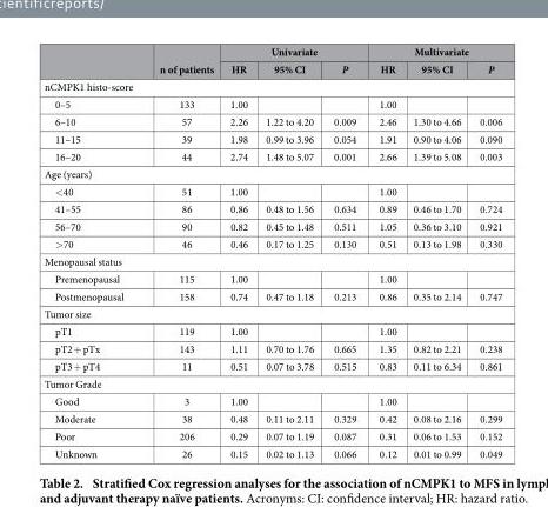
<table><thead><tr><td rowspan="2"></td><td rowspan="2">n of patients</td><td colspan="3">Univariate</td><td colspan="3">Multivariate</td></tr><tr><td>HR</td><td>95% CI</td><td>P</td><td>HR</td><td>95% CI</td><td>P</td></tr></thead><tbody><tr><td colspan="8">nCMPK1 histo-score</td></tr><tr><td>0–5</td><td>133</td><td>1.00</td><td></td><td></td><td>1.00</td><td></td><td></td></tr><tr><td>6–10</td><td>57</td><td>2.26</td><td>1.22 to 4.20</td><td>0.009</td><td>2.46</td><td>1.30 to 4.66</td><td>0.006</td></tr><tr><td>11–15</td><td>39</td><td>1.98</td><td>0.99 to 3.96</td><td>0.054</td><td>1.91</td><td>0.90 to 4.06</td><td>0.090</td></tr><tr><td>16–20</td><td>44</td><td>2.74</td><td>1.48 to 5.07</td><td>0.001</td><td>2.66</td><td>1.39 to 5.08</td><td>0.003</td></tr><tr><td colspan="8">Age (years)</td></tr><tr><td>&lt; 40</td><td>51</td><td>1.00</td><td></td><td></td><td>1.00</td><td></td><td></td></tr><tr><td>41–55</td><td>86</td><td>0.86</td><td>0.48 to 1.56</td><td>0.634</td><td>0.89</td><td>0.46 to 1.70</td><td>0.724</td></tr><tr><td>56–70</td><td>90</td><td>0.82</td><td>0.45 to 1.48</td><td>0.511</td><td>1.05</td><td>0.36 to 3.10</td><td>0.921</td></tr><tr><td>&gt; 70</td><td>46</td><td>0.46</td><td>0.17 to 1.25</td><td>0.130</td><td>0.51</td><td>0.13 to 1.98</td><td>0.330</td></tr><tr><td colspan="8">Menopausal status</td></tr><tr><td>Premenopausal</td><td>115</td><td>1.00</td><td></td><td></td><td>1.00</td><td></td><td></td></tr><tr><td>Postmenopausal</td><td>158</td><td>0.74</td><td>0.47 to 1.18</td><td>0.213</td><td>0.86</td><td>0.35 to 2.14</td><td>0.747</td></tr><tr><td colspan="8">Tumor size</td></tr><tr><td>pT1</td><td>119</td><td>1.00</td><td></td><td></td><td>1.00</td><td></td><td></td></tr><tr><td>pT2 + pTx</td><td>143</td><td>1.11</td><td>0.70 to 1.76</td><td>0.665</td><td>1.35</td><td>0.82 to 2.21</td><td>0.238</td></tr><tr><td>pT3 + pT4</td><td>11</td><td>0.51</td><td>0.07 to 3.78</td><td>0.515</td><td>0.83</td><td>0.11 to 6.34</td><td>0.861</td></tr><tr><td colspan="8">Tumor Grade</td></tr><tr><td>Good</td><td>3</td><td>1.00</td><td></td><td></td><td>1.00</td><td></td><td></td></tr><tr><td>Moderate</td><td>38</td><td>0.48</td><td>0.11 to 2.11</td><td>0.329</td><td>0.42</td><td>0.08 to 2.16</td><td>0.299</td></tr><tr><td>Poor</td><td>206</td><td>0.29</td><td>0.07 to 1.19</td><td>0.087</td><td>0.31</td><td>0.06 to 1.53</td><td>0.152</td></tr><tr><td>Unknown</td><td>26</td><td>0.15</td><td>0.02 to 1.13</td><td>0.066</td><td>0.12</td><td>0.01 to 0.99</td><td>0.049</td></tr></tbody></table>